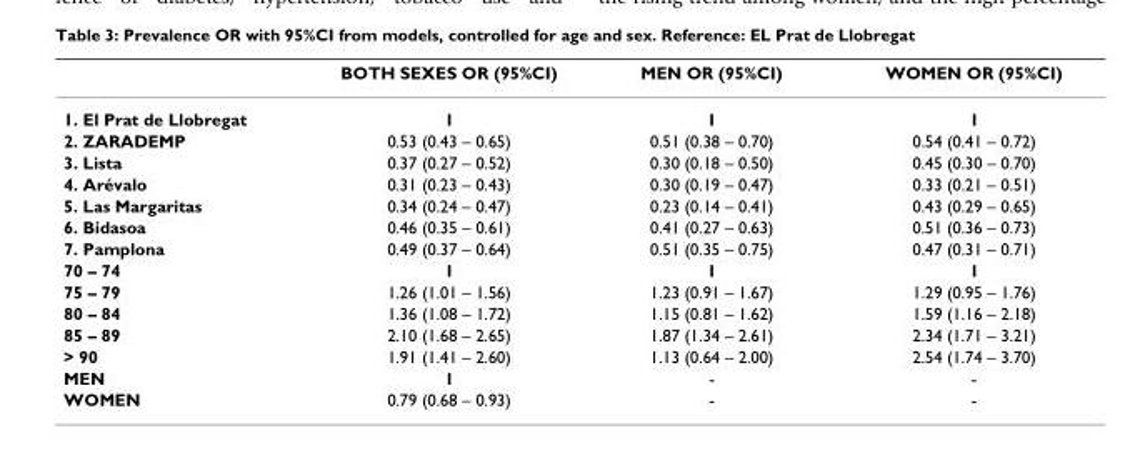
<table><thead><tr><td></td><td>BOTH SEXES OR (95%CI)</td><td>MEN OR (95%CI)</td><td>WOMEN OR (95%CI)</td></tr></thead><tbody><tr><td>1. El Prat de Llobregat</td><td>1</td><td>1</td><td>1</td></tr><tr><td>2. ZARADEMP</td><td>0.53 (0.43 – 0.65)</td><td>0.51 (0.38 – 0.70)</td><td>0.54 (0.41 – 0.72)</td></tr><tr><td>3. Lista</td><td>0.37 (0.27 – 0.52)</td><td>0.30 (0.18 – 0.50)</td><td>0.45 (0.30 – 0.70)</td></tr><tr><td>4. Arévalo</td><td>0.31 (0.23 – 0.43)</td><td>0.30 (0.19 – 0.47)</td><td>0.33 (0.21 – 0.51)</td></tr><tr><td>5. Las Margaritas</td><td>0.34 (0.24 – 0.47)</td><td>0.23 (0.14 – 0.41)</td><td>0.43 (0.29 – 0.65)</td></tr><tr><td>6. Bidasoa</td><td>0.46 (0.35 – 0.61)</td><td>0.41 (0.27 – 0.63)</td><td>0.51 (0.36 – 0.73)</td></tr><tr><td>7. Pamplona</td><td>0.49 (0.37 – 0.64)</td><td>0.51 (0.35 – 0.75)</td><td>0.47 (0.31 – 0.71)</td></tr><tr><td>70 – 74</td><td>1</td><td>1</td><td>1</td></tr><tr><td>75 – 79</td><td>1.26 (1.01 – 1.56)</td><td>1.23 (0.91 – 1.67)</td><td>1.29 (0.95 – 1.76)</td></tr><tr><td>80 – 84</td><td>1.36 (1.08 – 1.72)</td><td>1.15 (0.81 – 1.62)</td><td>1.59 (1.16 – 2.18)</td></tr><tr><td>85 – 89</td><td>2.10 (1.68 – 2.65)</td><td>1.87 (1.34 – 2.61)</td><td>2.34 (1.71 – 3.21)</td></tr><tr><td>&gt; 90</td><td>1.91 (1.41 – 2.60)</td><td>1.13 (0.64 – 2.00)</td><td>2.54 (1.74 – 3.70)</td></tr><tr><td>MEN</td><td>1</td><td>-</td><td>-</td></tr><tr><td>WOMEN</td><td>0.79 (0.68 – 0.93)</td><td>-</td><td>-</td></tr></tbody></table>